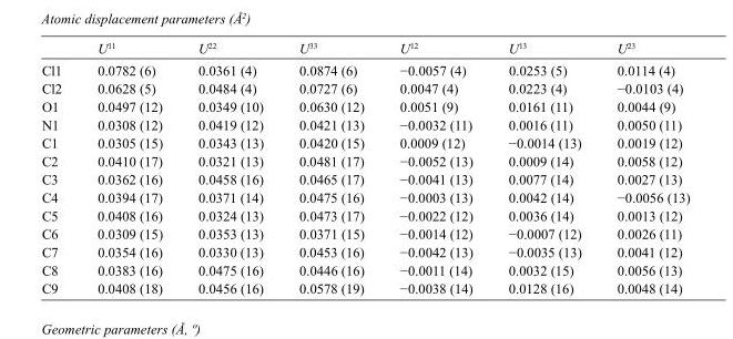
<table><thead><tr><td></td><td>U<sup>11</sup></td><td>U<sup>22</sup></td><td>U<sup>33</sup></td><td>U<sup>12</sup></td><td>U<sup>13</sup></td><td>U<sup>23</sup></td></tr></thead><tbody><tr><td>Cl1</td><td>0.0782 (6)</td><td>0.0361 (4)</td><td>0.0874 (6)</td><td>−0.0057 (4)</td><td>0.0253 (5)</td><td>0.0114 (4)</td></tr><tr><td>Cl2</td><td>0.0628 (5)</td><td>0.0484 (4)</td><td>0.0727 (6)</td><td>0.0047 (4)</td><td>0.0223 (4)</td><td>−0.0103 (4)</td></tr><tr><td>O1</td><td>0.0497 (12)</td><td>0.0349 (10)</td><td>0.0630 (12)</td><td>0.0051 (9)</td><td>0.0161 (11)</td><td>0.0044 (9)</td></tr><tr><td>N1</td><td>0.0308 (12)</td><td>0.0419 (12)</td><td>0.0421 (13)</td><td>−0.0032 (11)</td><td>0.0016 (11)</td><td>0.0050 (11)</td></tr><tr><td>C1</td><td>0.0305 (15)</td><td>0.0343 (13)</td><td>0.0420 (15)</td><td>0.0009 (12)</td><td>−0.0014 (13)</td><td>0.0019 (12)</td></tr><tr><td>C2</td><td>0.0410 (17)</td><td>0.0321 (13)</td><td>0.0481 (17)</td><td>−0.0052 (13)</td><td>0.0009 (14)</td><td>0.0058 (12)</td></tr><tr><td>C3</td><td>0.0362 (16)</td><td>0.0458 (16)</td><td>0.0465 (17)</td><td>−0.0041 (13)</td><td>0.0077 (14)</td><td>0.0027 (13)</td></tr><tr><td>C4</td><td>0.0394 (17)</td><td>0.0371 (14)</td><td>0.0475 (16)</td><td>−0.0003 (13)</td><td>0.0042 (14)</td><td>−0.0056 (13)</td></tr><tr><td>C5</td><td>0.0408 (16)</td><td>0.0324 (13)</td><td>0.0473 (17)</td><td>−0.0022 (12)</td><td>0.0036 (14)</td><td>0.0013 (12)</td></tr><tr><td>C6</td><td>0.0309 (15)</td><td>0.0353 (13)</td><td>0.0371 (15)</td><td>−0.0014 (12)</td><td>−0.0007 (12)</td><td>0.0026 (11)</td></tr><tr><td>C7</td><td>0.0354 (16)</td><td>0.0330 (13)</td><td>0.0453 (16)</td><td>−0.0042 (13)</td><td>−0.0035 (13)</td><td>0.0041 (12)</td></tr><tr><td>C8</td><td>0.0383 (16)</td><td>0.0475 (16)</td><td>0.0446 (16)</td><td>−0.0011 (14)</td><td>0.0032 (15)</td><td>0.0056 (13)</td></tr><tr><td>C9</td><td>0.0408 (18)</td><td>0.0456 (16)</td><td>0.0578 (19)</td><td>−0.0038 (14)</td><td>0.0128 (16)</td><td>0.0048 (14)</td></tr></tbody></table>